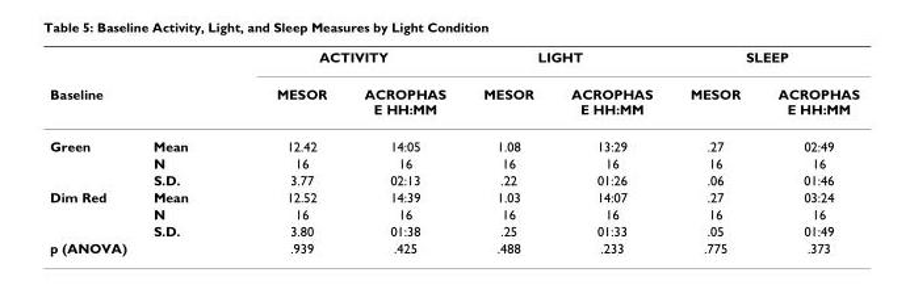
<table><thead><tr><td></td><td></td><td colspan="2">ACTIVITY</td><td colspan="2">LIGHT</td><td colspan="2">SLEEP</td></tr><tr><td colspan="2">Baseline</td><td>MESOR</td><td>ACROPHAS E HH:MM</td><td>MESOR</td><td>ACROPHAS E HH:MM</td><td>MESOR</td><td>ACROPHAS E HH:MM</td></tr></thead><tbody><tr><td rowspan="3">Green</td><td>Mean</td><td>12.42</td><td>14:05</td><td>1.08</td><td>13:29</td><td>.27</td><td>02:49</td></tr><tr><td>N</td><td>16</td><td>16</td><td>16</td><td>16</td><td>16</td><td>16</td></tr><tr><td>S.D.</td><td>3.77</td><td>02:13</td><td>.22</td><td>01:26</td><td>.06</td><td>01:46</td></tr><tr><td rowspan="3">Dim Red</td><td>Mean</td><td>12.52</td><td>14:39</td><td>1.03</td><td>14:07</td><td>.27</td><td>03:24</td></tr><tr><td>N</td><td>16</td><td>16</td><td>16</td><td>16</td><td>16</td><td>16</td></tr><tr><td>S.D.</td><td>3.80</td><td>01:38</td><td>.25</td><td>01:33</td><td>.05</td><td>01:49</td></tr><tr><td>p (ANOVA)</td><td></td><td>.939</td><td>.425</td><td>.488</td><td>.233</td><td>.775</td><td>.373</td></tr></tbody></table>